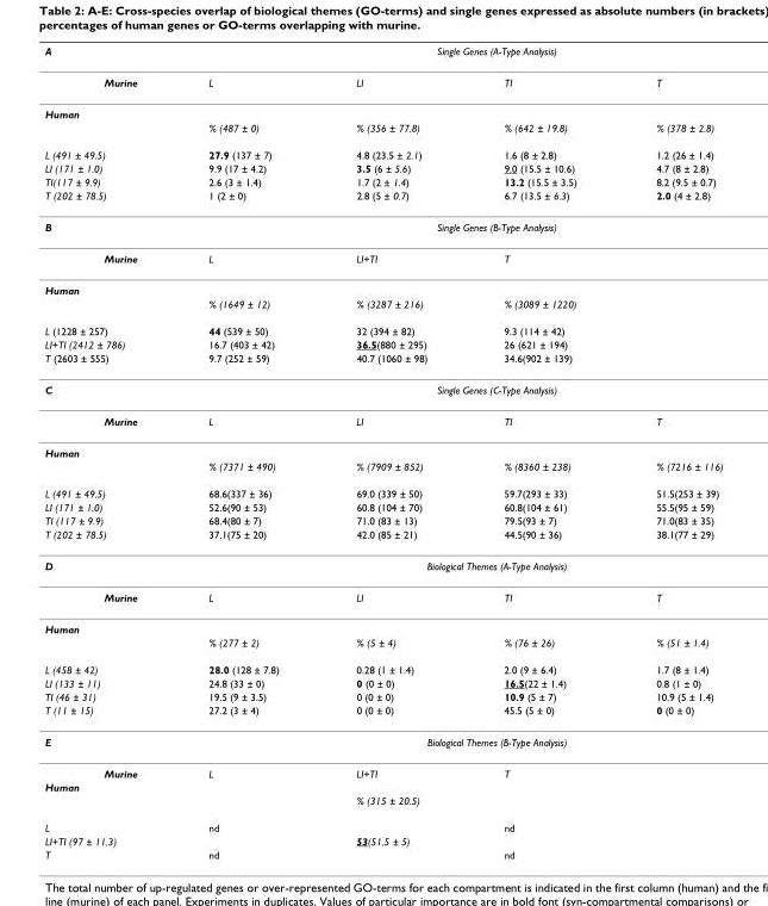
<table><thead><tr><td rowspan="2">A Murine</td><td colspan="4">Single Genes (A-Type Analysis)</td></tr><tr><td>L</td><td>LI</td><td>TI</td><td>T</td></tr></thead><tbody><tr><td colspan="5">Human</td></tr><tr><td></td><td>% (487 ± 0)</td><td>% (356 ± 77.8)</td><td>% (642 ± 19.8)</td><td>% (378 ± 2.8)</td></tr><tr><td>L (491 ± 49.5)</td><td>27.9 (137 ± 7)</td><td>4.8 (23.5 ± 2.1)</td><td>1.6 (8 ± 2.8)</td><td>1.2 (26 ± 1.4)</td></tr><tr><td>LI (171 ± 1.0)</td><td>9.9 (17 ± 4.2)</td><td>3.5 (6 ± 5.6)</td><td>9.0 (15.5 ± 10.6)</td><td>4.7 (8 ± 2.8)</td></tr><tr><td>TI(117 ± 9.9)</td><td>2.6 (3 ± 1.4)</td><td>1.7 (2 ± 1.4)</td><td>13.2 (15.5 ± 3.5)</td><td>8.2 (9.5 ± 0.7)</td></tr><tr><td>T (202 ± 78.5)</td><td>1 (2 ± 0)</td><td>2.8 (5 ± 0.7)</td><td>6.7 (13.5 ± 6.3)</td><td>2.0 (4 ± 2.8)</td></tr><tr><td>B</td><td colspan="4">Single Genes (B-Type Analysis)</td></tr><tr><td>Murine</td><td>L</td><td>LI+TI</td><td>T</td><td></td></tr><tr><td colspan="5">Human</td></tr><tr><td></td><td>% (1649 ± 12)</td><td>% (3287 ± 216)</td><td>% (3089 ± 1220)</td><td></td></tr><tr><td>L (1228 ± 257)</td><td>44 (539 ± 50)</td><td>32 (394 ± 82)</td><td>9.3 (114 ± 42)</td><td></td></tr><tr><td>LI+TI (2412 ± 786)</td><td>16.7 (403 ± 42)</td><td>36.5(880 ± 295)</td><td>26 (621 ± 194)</td><td></td></tr><tr><td>T (2603 ± 555)</td><td>9.7 (252 ± 59)</td><td>40.7 (1060 ± 98)</td><td>34.6(902 ± 139)</td><td></td></tr><tr><td>C</td><td colspan="4">Single Genes (C-Type Analysis)</td></tr><tr><td>Murine</td><td>L</td><td>LI</td><td>TI</td><td>T</td></tr><tr><td colspan="5">Human</td></tr><tr><td></td><td>% (7371 ± 490)</td><td>% (7909 ± 852)</td><td>% (8360 ± 238)</td><td>% (7216 ± 116)</td></tr><tr><td>L (491 ± 49.5)</td><td>68.6(337 ± 36)</td><td>69.0 (339 ± 50)</td><td>59.7(293 ± 33)</td><td>51.5(253 ± 39)</td></tr><tr><td>LI (171 ± 1.0)</td><td>52.6(90 ± 53)</td><td>60.8 (104 ± 70)</td><td>60.8(104 ± 61)</td><td>55.5(95 ± 59)</td></tr><tr><td>TI (117 ± 9.9)</td><td>68.4(80 ± 7)</td><td>71.0 (83 ± 13)</td><td>79.5(93 ± 7)</td><td>71.0(83 ± 35)</td></tr><tr><td>T (202 ± 78.5)</td><td>37.1(75 ± 20)</td><td>42.0 (85 ± 21)</td><td>44.5(90 ± 36)</td><td>38.1(77 ± 29)</td></tr><tr><td>D</td><td colspan="4">Biological Themes (A-Type Analysis)</td></tr><tr><td>Murine</td><td>L</td><td>LI</td><td>TI</td><td>T</td></tr><tr><td colspan="5">Human</td></tr><tr><td></td><td>% (277 ± 2)</td><td>% (5 ± 4)</td><td>% (76 ± 26)</td><td>% (51 ± 1.4)</td></tr><tr><td>L (458 ± 42)</td><td>28.0 (128 ± 7.8)</td><td>0.28 (1 ± 1.4)</td><td>2.0 (9 ± 6.4)</td><td>1.7 (8 ± 1.4)</td></tr><tr><td>LI (133 ± 11)</td><td>24.8 (33 ± 0)</td><td>0 (0 ± 0)</td><td>16.5(22 ± 1.4)</td><td>0.8 (1 ± 0)</td></tr><tr><td>TI (46 ± 31)</td><td>19.5 (9 ± 3.5)</td><td>0 (0 ± 0)</td><td>10.9 (5 ± 7)</td><td>10.9 (5 ± 1.4)</td></tr><tr><td>T (11 ± 15)</td><td>27.2 (3 ± 4)</td><td>0 (0 ± 0)</td><td>45.5 (5 ± 0)</td><td>0 (0 ± 0)</td></tr><tr><td>E</td><td colspan="4">Biological Themes (B-Type Analysis)</td></tr><tr><td>Murine</td><td>L</td><td>LI+TI</td><td>T</td><td></td></tr><tr><td colspan="5">Human</td></tr><tr><td></td><td></td><td>% (315 ± 20.5)</td><td></td><td></td></tr><tr><td>L</td><td>nd</td><td></td><td>nd</td><td></td></tr><tr><td>LI+TI (97 ± 11.3)</td><td></td><td>53(51.5 ± 5)</td><td></td><td></td></tr><tr><td>T</td><td>nd</td><td></td><td>nd</td><td></td></tr></tbody></table>